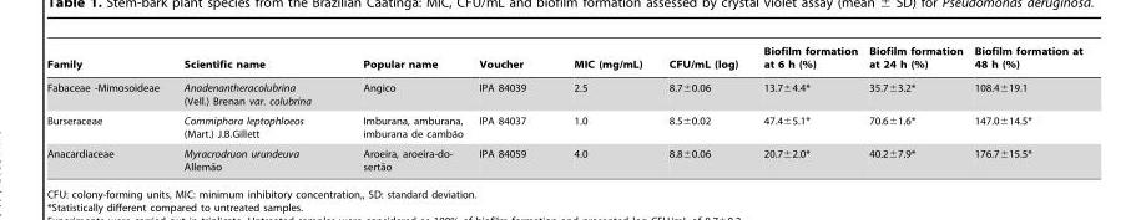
<table><thead><tr><td>Family</td><td>Scientific name</td><td>Popular name</td><td>Voucher</td><td>MIC (mg/mL)</td><td>CFU/mL (log)</td><td>Biofilm formation at 6 h (%)</td><td>Biofilm formation at 24 h (%)</td><td>Biofilm formation at 48 h (%)</td></tr></thead><tbody><tr><td>Fabaceae -Mimosoideae</td><td>Anadenantheracolubrina (Vell.) Brenan var. colubrina</td><td>Angico</td><td>IPA 84039</td><td>2.5</td><td>8.7±0.06</td><td>13.7±4.4*</td><td>35.7±3.2*</td><td>108.4±19.1</td></tr><tr><td>Burseraceae</td><td>Commiphora leptophloeos (Mart.) J.B.Gillett</td><td>Imburana, amburana, imburana de camba˜o</td><td>IPA 84037</td><td>1.0</td><td>8.5±0.02</td><td>47.4±5.1*</td><td>70.6±1.6*</td><td>147.0±14.5*</td></tr><tr><td>Anacardiaceae</td><td>Myracrodruon urundeuva Allema˜o</td><td>Aroeira, aroeira-do- serta˜o</td><td>IPA 84059</td><td>4.0</td><td>8.8±0.06</td><td>20.7±2.0*</td><td>40.2±7.9*</td><td>176.7±15.5*</td></tr></tbody></table>